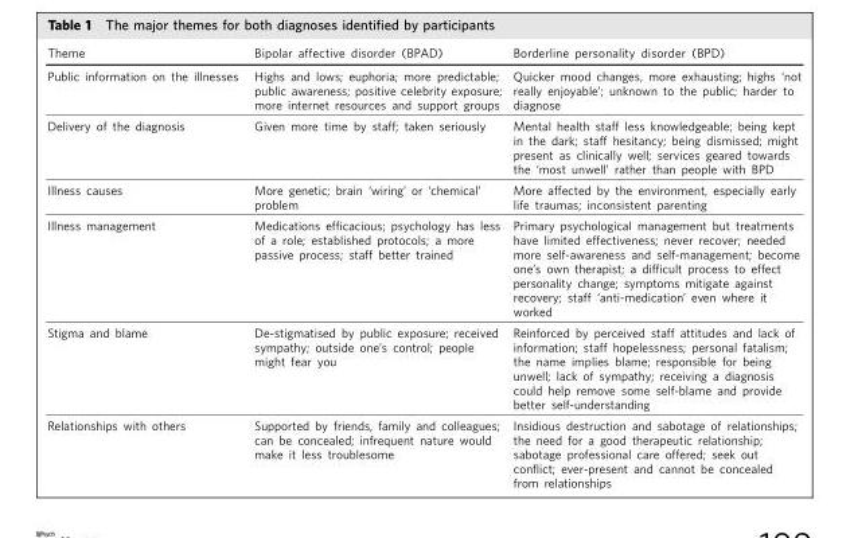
<table><thead><tr><td>Theme</td><td>Bipolar affective disorder (BPAD)</td><td>Borderline personality disorder (BPD)</td></tr></thead><tbody><tr><td>Public information on the illnesses</td><td>Highs and lows; euphoria; more predictable; public awareness; positive celebrity exposure; more internet resources and support groups</td><td>Quicker mood changes, more exhausting; highs ‘not really enjoyable’; unknown to the public; harder to diagnose</td></tr><tr><td>Delivery of the diagnosis</td><td>Given more time by staff; taken seriously</td><td>Mental health staff less knowledgeable; being kept in the dark; staff hesitancy; being dismissed; might present as clinically well; services geared towards the ‘most unwell’ rather than people with BPD</td></tr><tr><td>Illness causes</td><td>More genetic; brain ‘wiring’ or ‘chemical’ problem</td><td>More affected by the environment, especially early life traumas; inconsistent parenting</td></tr><tr><td>Illness management</td><td>Medications efficacious; psychology has less of a role; established protocols; a more passive process; staff better trained</td><td>Primary psychological management but treatments have limited effectiveness; never recover; needed more self-awareness and self-management; become one’s own therapist; a difficult process to effect personality change; symptoms mitigate against recovery; staff ‘anti-medication’ even where it worked</td></tr><tr><td>Stigma and blame</td><td>De-stigmatised by public exposure; received sympathy; outside one’s control; people might fear you</td><td>Reinforced by perceived staff attitudes and lack of information; staff hopelessness; personal fatalism; the name implies blame; responsible for being unwell; lack of sympathy; receiving a diagnosis could help remove some self-blame and provide better self-understanding</td></tr><tr><td>Relationships with others</td><td>Supported by friends, family and colleagues; can be concealed; infrequent nature would make it less troublesome</td><td>Insidious destruction and sabotage of relationships; the need for a good therapeutic relationship; sabotage professional care offered; seek out conflict; ever-present and cannot be concealed from relationships</td></tr></tbody></table>